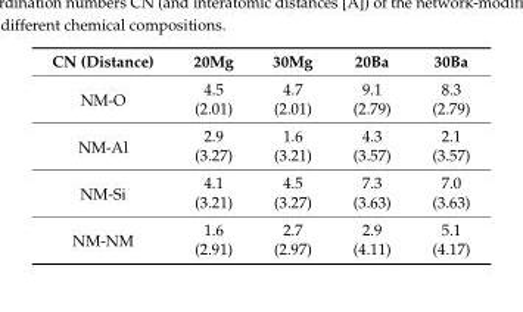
<table><thead><tr><td>CN (Distance)</td><td>20Mg</td><td>30Mg</td><td>20Ba</td><td>30Ba</td></tr></thead><tbody><tr><td rowspan="2">NM-O</td><td>4.5</td><td>4.7</td><td>9.1</td><td>8.3</td></tr><tr><td>(2.01)</td><td>(2.01)</td><td>(2.79)</td><td>(2.79)</td></tr><tr><td rowspan="2">NM-Al</td><td>2.9</td><td>1.6</td><td>4.3</td><td>2.1</td></tr><tr><td>(3.27)</td><td>(3.21)</td><td>(3.57)</td><td>(3.57)</td></tr><tr><td rowspan="2">NM-Si</td><td>4.1</td><td>4.5</td><td>7.3</td><td>7.0</td></tr><tr><td>(3.21)</td><td>(3.27)</td><td>(3.63)</td><td>(3.63)</td></tr><tr><td rowspan="2">NM-NM</td><td>1.6</td><td>2.7</td><td>2.9</td><td>5.1</td></tr><tr><td>(2.91)</td><td>(2.97)</td><td>(4.11)</td><td>(4.17)</td></tr></tbody></table>